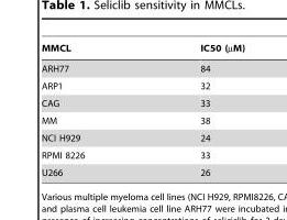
<table><thead><tr><td>MMCL</td><td>IC50 (µM)</td></tr></thead><tbody><tr><td>ARH77</td><td>84</td></tr><tr><td>ARP1</td><td>32</td></tr><tr><td>CAG</td><td>33</td></tr><tr><td>MM</td><td>38</td></tr><tr><td>NCI H929</td><td>24</td></tr><tr><td>RPMI 8226</td><td>33</td></tr><tr><td>U266</td><td>26</td></tr></tbody></table>